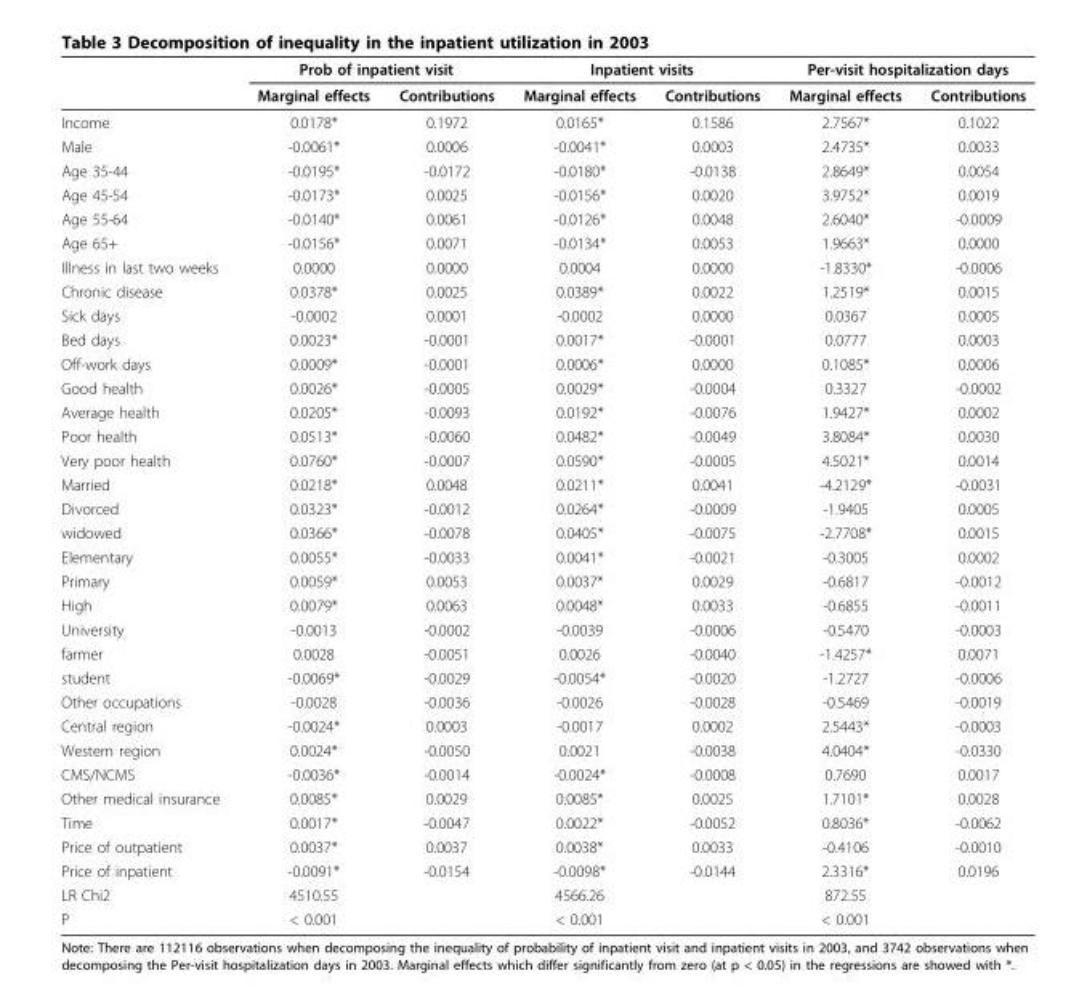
<table><thead><tr><td rowspan="2"></td><td colspan="2">Prob of inpatient visit</td><td colspan="2">Inpatient visits</td><td colspan="2">Per-visit hospitalization days</td></tr><tr><td>Marginal effects</td><td>Contributions</td><td>Marginal effects</td><td>Contributions</td><td>Marginal effects</td><td>Contributions</td></tr></thead><tbody><tr><td>Income</td><td>0.0178*</td><td>0.1972</td><td>0.0165*</td><td>0.1586</td><td>2.7567*</td><td>0.1022</td></tr><tr><td>Male</td><td>-0.0061*</td><td>0.0006</td><td>-0.0041*</td><td>0.0003</td><td>2.4735*</td><td>0.0033</td></tr><tr><td>Age 35-44</td><td>-0.0195*</td><td>-0.0172</td><td>-0.0180*</td><td>-0.0138</td><td>2.8649*</td><td>0.0054</td></tr><tr><td>Age 45-54</td><td>-0.0173*</td><td>0.0025</td><td>-0.0156*</td><td>0.0020</td><td>3.9752*</td><td>0.0019</td></tr><tr><td>Age 55-64</td><td>-0.0140*</td><td>0.0061</td><td>-0.0126*</td><td>0.0048</td><td>2.6040*</td><td>-0.0009</td></tr><tr><td>Age 65+</td><td>-0.0156*</td><td>0.0071</td><td>-0.0134*</td><td>0.0053</td><td>1.9663*</td><td>0.0000</td></tr><tr><td>Illness in last two weeks</td><td>0.0000</td><td>0.0000</td><td>0.0004</td><td>0.0000</td><td>-1.8330*</td><td>-0.0006</td></tr><tr><td>Chronic disease</td><td>0.0378*</td><td>0.0025</td><td>0.0389*</td><td>0.0022</td><td>1.2519*</td><td>0.0015</td></tr><tr><td>Sick days</td><td>-0.0002</td><td>0.0001</td><td>-0.0002</td><td>0.0000</td><td>0.0367</td><td>0.0005</td></tr><tr><td>Bed days</td><td>0.0023*</td><td>-0.0001</td><td>0.0017*</td><td>-0.0001</td><td>0.0777</td><td>0.0003</td></tr><tr><td>Off-work days</td><td>0.0009*</td><td>-0.0001</td><td>0.0006*</td><td>0.0000</td><td>0.1085*</td><td>0.0006</td></tr><tr><td>Good health</td><td>0.0026*</td><td>-0.0005</td><td>0.0029*</td><td>-0.0004</td><td>0.3327</td><td>-0.0002</td></tr><tr><td>Average health</td><td>0.0205*</td><td>-0.0093</td><td>0.0192*</td><td>-0.0076</td><td>1.9427*</td><td>0.0002</td></tr><tr><td>Poor health</td><td>0.0513*</td><td>-0.0060</td><td>0.0482*</td><td>-0.0049</td><td>3.8084*</td><td>0.0030</td></tr><tr><td>Very poor health</td><td>0.0760*</td><td>-0.0007</td><td>0.0590*</td><td>-0.0005</td><td>4.5021*</td><td>0.0014</td></tr><tr><td>Married</td><td>0.0218*</td><td>0.0048</td><td>0.0211*</td><td>0.0041</td><td>-4.2129*</td><td>-0.0031</td></tr><tr><td>Divorced</td><td>0.0323*</td><td>-0.0012</td><td>0.0264*</td><td>-0.0009</td><td>-1.9405</td><td>0.0005</td></tr><tr><td>widowed</td><td>0.0366*</td><td>-0.0078</td><td>0.0405*</td><td>-0.0075</td><td>-2.7708*</td><td>0.0015</td></tr><tr><td>Elementary</td><td>0.0055*</td><td>-0.0033</td><td>0.0041*</td><td>-0.0021</td><td>-0.3005</td><td>0.0002</td></tr><tr><td>Primary</td><td>0.0059*</td><td>0.0053</td><td>0.0037*</td><td>0.0029</td><td>-0.6817</td><td>-0.0012</td></tr><tr><td>High</td><td>0.0079*</td><td>0.0063</td><td>0.0048*</td><td>0.0033</td><td>-0.6855</td><td>-0.0011</td></tr><tr><td>University</td><td>-0.0013</td><td>-0.0002</td><td>-0.0039</td><td>-0.0006</td><td>-0.5470</td><td>-0.0003</td></tr><tr><td>farmer</td><td>0.0028</td><td>-0.0051</td><td>0.0026</td><td>-0.0040</td><td>-1.4257*</td><td>0.0071</td></tr><tr><td>student</td><td>-0.0069*</td><td>-0.0029</td><td>-0.0054*</td><td>-0.0020</td><td>-1.2727</td><td>-0.0006</td></tr><tr><td>Other occupations</td><td>-0.0028</td><td>-0.0036</td><td>-0.0026</td><td>-0.0028</td><td>-0.5469</td><td>-0.0019</td></tr><tr><td>Central region</td><td>-0.0024*</td><td>0.0003</td><td>-0.0017</td><td>0.0002</td><td>2.5443*</td><td>-0.0003</td></tr><tr><td>Western region</td><td>0.0024*</td><td>-0.0050</td><td>0.0021</td><td>-0.0038</td><td>4.0404*</td><td>-0.0330</td></tr><tr><td>CMS/NCMS</td><td>-0.0036*</td><td>-0.0014</td><td>-0.0024*</td><td>-0.0008</td><td>0.7690</td><td>0.0017</td></tr><tr><td>Other medical insurance</td><td>0.0085*</td><td>0.0029</td><td>0.0085*</td><td>0.0025</td><td>1.7101*</td><td>0.0028</td></tr><tr><td>Time</td><td>0.0017*</td><td>-0.0047</td><td>0.0022*</td><td>-0.0052</td><td>0.8036*</td><td>-0.0062</td></tr><tr><td>Price of outpatient</td><td>0.0037*</td><td>0.0037</td><td>0.0038*</td><td>0.0033</td><td>-0.4106</td><td>-0.0010</td></tr><tr><td>Price of inpatient</td><td>-0.0091*</td><td>-0.0154</td><td>-0.0098*</td><td>-0.0144</td><td>2.3316*</td><td>0.0196</td></tr><tr><td>LR Chi2</td><td>4510.55</td><td></td><td>4566.26</td><td></td><td>872.55</td><td></td></tr><tr><td>P</td><td>&lt; 0.001</td><td></td><td>&lt; 0.001</td><td></td><td>&lt; 0.001</td><td></td></tr></tbody></table>